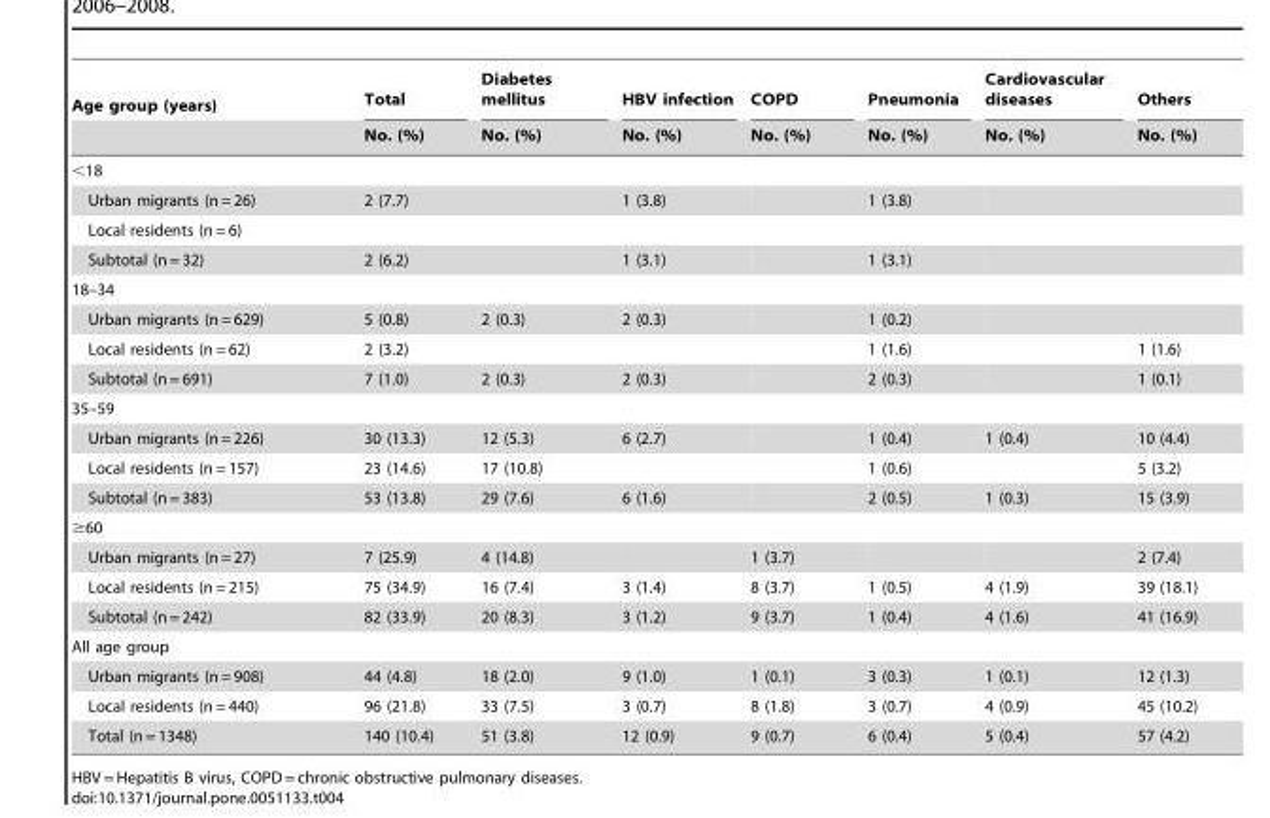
<table><thead><tr><td rowspan="2">Age group (years)</td><td rowspan="2">Total No. (%)</td><td rowspan="2">Diabetes mellitus No. (%)</td><td rowspan="2">HBV infection No. (%)</td><td rowspan="2">COPD No. (%)</td><td rowspan="2">Pneumonia No. (%)</td><td rowspan="2">Cardiovascular diseases No. (%)</td><td rowspan="2">Others No. (%)</td></tr><tr></tr></thead><tbody><tr><td colspan="8">&lt;18</td></tr><tr><td>Urban migrants (n = 26)</td><td>2 (7.7)</td><td></td><td>1 (3.8)</td><td></td><td>1 (3.8)</td><td></td><td></td></tr><tr><td colspan="8">Local residents (n = 6)</td></tr><tr><td>Subtotal (n = 32)</td><td>2 (6.2)</td><td></td><td>1 (3.1)</td><td></td><td>1 (3.1)</td><td></td><td></td></tr><tr><td colspan="8">18–34</td></tr><tr><td>Urban migrants (n = 629)</td><td>5 (0.8)</td><td>2 (0.3)</td><td>2 (0.3)</td><td></td><td>1 (0.2)</td><td></td><td></td></tr><tr><td>Local residents (n = 62)</td><td>2 (3.2)</td><td></td><td></td><td></td><td>1 (1.6)</td><td></td><td>1 (1.6)</td></tr><tr><td>Subtotal (n = 691)</td><td>7 (1.0)</td><td>2 (0.3)</td><td>2 (0.3)</td><td></td><td>2 (0.3)</td><td></td><td>1 (0.1)</td></tr><tr><td colspan="8">35–59</td></tr><tr><td>Urban migrants (n = 226)</td><td>30 (13.3)</td><td>12 (5.3)</td><td>6 (2.7)</td><td></td><td>1 (0.4)</td><td>1 (0.4)</td><td>10 (4.4)</td></tr><tr><td>Local residents (n = 157)</td><td>23 (14.6)</td><td>17 (10.8)</td><td></td><td></td><td>1 (0.6)</td><td></td><td>5 (3.2)</td></tr><tr><td>Subtotal (n = 383)</td><td>53 (13.8)</td><td>29 (7.6)</td><td>6 (1.6)</td><td></td><td>2 (0.5)</td><td>1 (0.3)</td><td>15 (3.9)</td></tr><tr><td colspan="8">≥60</td></tr><tr><td>Urban migrants (n = 27)</td><td>7 (25.9)</td><td>4 (14.8)</td><td></td><td>1 (3.7)</td><td></td><td></td><td>2 (7.4)</td></tr><tr><td>Local residents (n = 215)</td><td>75 (34.9)</td><td>16 (7.4)</td><td>3 (1.4)</td><td>8 (3.7)</td><td>1 (0.5)</td><td>4 (1.9)</td><td>39 (18.1)</td></tr><tr><td>Subtotal (n = 242)</td><td>82 (33.9)</td><td>20 (8.3)</td><td>3 (1.2)</td><td>9 (3.7)</td><td>1 (0.4)</td><td>4 (1.6)</td><td>41 (16.9)</td></tr><tr><td colspan="8">All age group</td></tr><tr><td>Urban migrants (n = 908)</td><td>44 (4.8)</td><td>18 (2.0)</td><td>9 (1.0)</td><td>1 (0.1)</td><td>3 (0.3)</td><td>1 (0.1)</td><td>12 (1.3)</td></tr><tr><td>Local residents (n = 440)</td><td>96 (21.8)</td><td>33 (7.5)</td><td>3 (0.7)</td><td>8 (1.8)</td><td>3 (0.7)</td><td>4 (0.9)</td><td>45 (10.2)</td></tr><tr><td>Total (n = 1348)</td><td>140 (10.4)</td><td>51 (3.8)</td><td>12 (0.9)</td><td>9 (0.7)</td><td>6 (0.4)</td><td>5 (0.4)</td><td>57 (4.2)</td></tr></tbody></table>